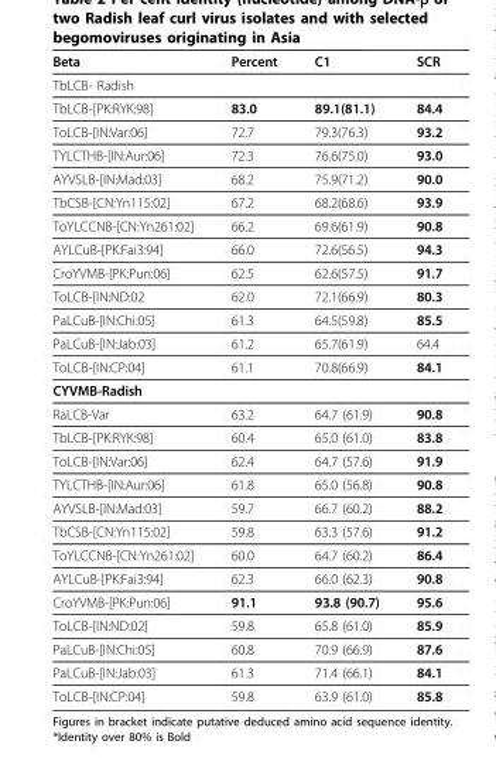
<table><thead><tr><td>Beta</td><td>Percent</td><td>C1</td><td>SCR</td></tr></thead><tbody><tr><td colspan="4">TbLCB- Radish</td></tr><tr><td>TbLCB-[PK:RYK:98]</td><td>83.0</td><td>89.1(81.1)</td><td>84.4</td></tr><tr><td>ToLCB-[IN:Var:06]</td><td>72.7</td><td>79.3(76.3)</td><td>93.2</td></tr><tr><td>TYLCTHB-[IN:Aur:06]</td><td>72.3</td><td>76.6(75.0)</td><td>93.0</td></tr><tr><td>AYVSLB-[IN:Mad:03]</td><td>68.2</td><td>75.9(71.2)</td><td>90.0</td></tr><tr><td>TbCSB-[CN:Yn115:02]</td><td>67.2</td><td>68.2(68.6)</td><td>93.9</td></tr><tr><td>ToYLCCNB-[CN:Yn261:02]</td><td>66.2</td><td>69.6(61.9)</td><td>90.8</td></tr><tr><td>AYLCuB-[PK:Fai3:94]</td><td>66.0</td><td>72.6(56.5)</td><td>94.3</td></tr><tr><td>CroYVMB-[PK:Pun:06]</td><td>62.5</td><td>62.6(57.5)</td><td>91.7</td></tr><tr><td>ToLCB-[IN:ND:02</td><td>62.0</td><td>72.1(66.9)</td><td>80.3</td></tr><tr><td>PaLCuB-[IN:Chi:05]</td><td>61.3</td><td>64.5(59.8)</td><td>85.5</td></tr><tr><td>PaLCuB-[IN:Jab:03]</td><td>61.2</td><td>65.7(61.9)</td><td>64.4</td></tr><tr><td>ToLCB-[IN:CP:04]</td><td>61.1</td><td>70.8(66.9)</td><td>84.1</td></tr><tr><td colspan="4">CYVMB-Radish</td></tr><tr><td>RaLCB-Var</td><td>63.2</td><td>64.7 (61.9)</td><td>90.8</td></tr><tr><td>TbLCB-[PK:RYK:98]</td><td>60.4</td><td>65.0 (61.0)</td><td>83.8</td></tr><tr><td>ToLCB-[IN:Var:06]</td><td>62.4</td><td>64.7 (57.6)</td><td>91.9</td></tr><tr><td>TYLCTHB-[IN:Aur:06]</td><td>61.8</td><td>65.0 (56.8)</td><td>90.8</td></tr><tr><td>AYVSLB-[IN:Mad:03]</td><td>59.7</td><td>66.7 (60.2)</td><td>88.2</td></tr><tr><td>TbCSB-[CN:Yn115:02]</td><td>59.8</td><td>63.3 (57.6)</td><td>91.2</td></tr><tr><td>ToYLCCNB-[CN:Yn261:02]</td><td>60.0</td><td>64.7 (60.2)</td><td>86.4</td></tr><tr><td>AYLCuB-[PK:Fai3:94]</td><td>62.3</td><td>66.0 (62.3)</td><td>90.8</td></tr><tr><td>CroYVMB-[PK:Pun:06]</td><td>91.1</td><td>93.8 (90.7)</td><td>95.6</td></tr><tr><td>ToLCB-[IN:ND:02]</td><td>59.8</td><td>65.8 (61.0)</td><td>85.9</td></tr><tr><td>PaLCuB-[IN:Chi:05]</td><td>60.8</td><td>70.9 (66.9)</td><td>87.6</td></tr><tr><td>PaLCuB-[IN:Jab:03]</td><td>61.3</td><td>71.4 (66.1)</td><td>84.1</td></tr><tr><td>ToLCB-[IN:CP:04]</td><td>59.8</td><td>63.9 (61.0)</td><td>85.8</td></tr></tbody></table>